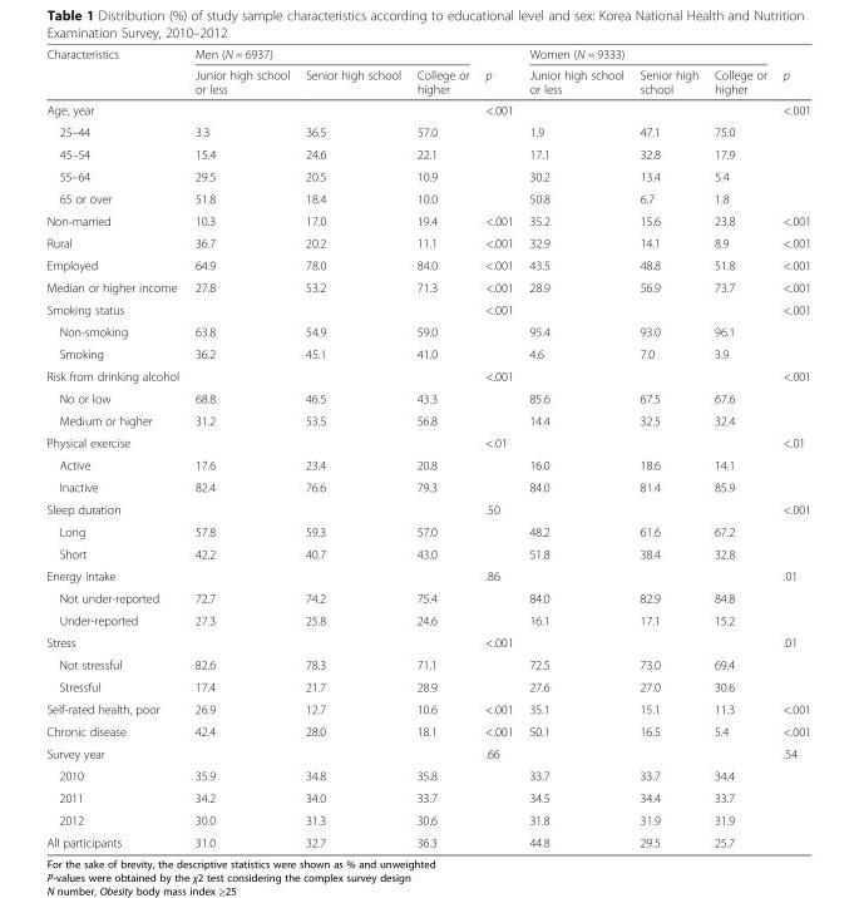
<table><thead><tr><td rowspan="2">Characteristics</td><td colspan="3">Men (N = 6937)</td><td rowspan="2">p</td><td colspan="3">Women (N = 9333)</td><td rowspan="2">p</td></tr><tr><td>Junior high school or less</td><td>Senior high school</td><td>College or higher</td><td>Junior high school or less</td><td>Senior high school</td><td>College or higher</td></tr></thead><tbody><tr><td>Age, year</td><td></td><td></td><td></td><td>&lt;.001</td><td></td><td></td><td></td><td>&lt;.001</td></tr><tr><td>25–44</td><td>3.3</td><td>36.5</td><td>57.0</td><td></td><td>1.9</td><td>47.1</td><td>75.0</td><td></td></tr><tr><td>45–54</td><td>15.4</td><td>24.6</td><td>22.1</td><td></td><td>17.1</td><td>32.8</td><td>17.9</td><td></td></tr><tr><td>55–64</td><td>29.5</td><td>20.5</td><td>10.9</td><td></td><td>30.2</td><td>13.4</td><td>5.4</td><td></td></tr><tr><td>65 or over</td><td>51.8</td><td>18.4</td><td>10.0</td><td></td><td>50.8</td><td>6.7</td><td>1.8</td><td></td></tr><tr><td>Non-married</td><td>10.3</td><td>17.0</td><td>19.4</td><td>&lt;.001</td><td>35.2</td><td>15.6</td><td>23.8</td><td>&lt;.001</td></tr><tr><td>Rural</td><td>36.7</td><td>20.2</td><td>11.1</td><td>&lt;.001</td><td>32.9</td><td>14.1</td><td>8.9</td><td>&lt;.001</td></tr><tr><td>Employed</td><td>64.9</td><td>78.0</td><td>84.0</td><td>&lt;.001</td><td>43.5</td><td>48.8</td><td>51.8</td><td>&lt;.001</td></tr><tr><td>Median or higher income</td><td>27.8</td><td>53.2</td><td>71.3</td><td>&lt;.001</td><td>28.9</td><td>56.9</td><td>73.7</td><td>&lt;.001</td></tr><tr><td>Smoking status</td><td></td><td></td><td></td><td>&lt;.001</td><td></td><td></td><td></td><td>&lt;.001</td></tr><tr><td>Non-smoking</td><td>63.8</td><td>54.9</td><td>59.0</td><td></td><td>95.4</td><td>93.0</td><td>96.1</td><td></td></tr><tr><td>Smoking</td><td>36.2</td><td>45.1</td><td>41.0</td><td></td><td>4.6</td><td>7.0</td><td>3.9</td><td></td></tr><tr><td>Risk from drinking alcohol</td><td></td><td></td><td></td><td>&lt;.001</td><td></td><td></td><td></td><td>&lt;.001</td></tr><tr><td>No or low</td><td>68.8</td><td>46.5</td><td>43.3</td><td></td><td>85.6</td><td>67.5</td><td>67.6</td><td></td></tr><tr><td>Medium or higher</td><td>31.2</td><td>53.5</td><td>56.8</td><td></td><td>14.4</td><td>32.5</td><td>32.4</td><td></td></tr><tr><td>Physical exercise</td><td></td><td></td><td></td><td>&lt;.01</td><td></td><td></td><td></td><td>&lt;.01</td></tr><tr><td>Active</td><td>17.6</td><td>23.4</td><td>20.8</td><td></td><td>16.0</td><td>18.6</td><td>14.1</td><td></td></tr><tr><td>Inactive</td><td>82.4</td><td>76.6</td><td>79.3</td><td></td><td>84.0</td><td>81.4</td><td>85.9</td><td></td></tr><tr><td>Sleep duration</td><td></td><td></td><td></td><td>.50</td><td></td><td></td><td></td><td>&lt;.001</td></tr><tr><td>Long</td><td>57.8</td><td>59.3</td><td>57.0</td><td></td><td>48.2</td><td>61.6</td><td>67.2</td><td></td></tr><tr><td>Short</td><td>42.2</td><td>40.7</td><td>43.0</td><td></td><td>51.8</td><td>38.4</td><td>32.8</td><td></td></tr><tr><td>Energy intake</td><td></td><td></td><td></td><td>.86</td><td></td><td></td><td></td><td>.01</td></tr><tr><td>Not under-reported</td><td>72.7</td><td>74.2</td><td>75.4</td><td></td><td>84.0</td><td>82.9</td><td>84.8</td><td></td></tr><tr><td>Under-reported</td><td>27.3</td><td>25.8</td><td>24.6</td><td></td><td>16.1</td><td>17.1</td><td>15.2</td><td></td></tr><tr><td>Stress</td><td></td><td></td><td></td><td>&lt;.001</td><td></td><td></td><td></td><td>.01</td></tr><tr><td>Not stressful</td><td>82.6</td><td>78.3</td><td>71.1</td><td></td><td>72.5</td><td>73.0</td><td>69.4</td><td></td></tr><tr><td>Stressful</td><td>17.4</td><td>21.7</td><td>28.9</td><td></td><td>27.6</td><td>27.0</td><td>30.6</td><td></td></tr><tr><td>Self-rated health, poor</td><td>26.9</td><td>12.7</td><td>10.6</td><td>&lt;.001</td><td>35.1</td><td>15.1</td><td>11.3</td><td>&lt;.001</td></tr><tr><td>Chronic disease</td><td>42.4</td><td>28.0</td><td>18.1</td><td>&lt;.001</td><td>50.1</td><td>16.5</td><td>5.4</td><td>&lt;.001</td></tr><tr><td>Survey year</td><td></td><td></td><td></td><td>.66</td><td></td><td></td><td></td><td>.54</td></tr><tr><td>2010</td><td>35.9</td><td>34.8</td><td>35.8</td><td></td><td>33.7</td><td>33.7</td><td>34.4</td><td></td></tr><tr><td>2011</td><td>34.2</td><td>34.0</td><td>33.7</td><td></td><td>34.5</td><td>34.4</td><td>33.7</td><td></td></tr><tr><td>2012</td><td>30.0</td><td>31.3</td><td>30.6</td><td></td><td>31.8</td><td>31.9</td><td>31.9</td><td></td></tr><tr><td>All participants</td><td>31.0</td><td>32.7</td><td>36.3</td><td></td><td>44.8</td><td>29.5</td><td>25.7</td><td></td></tr></tbody></table>